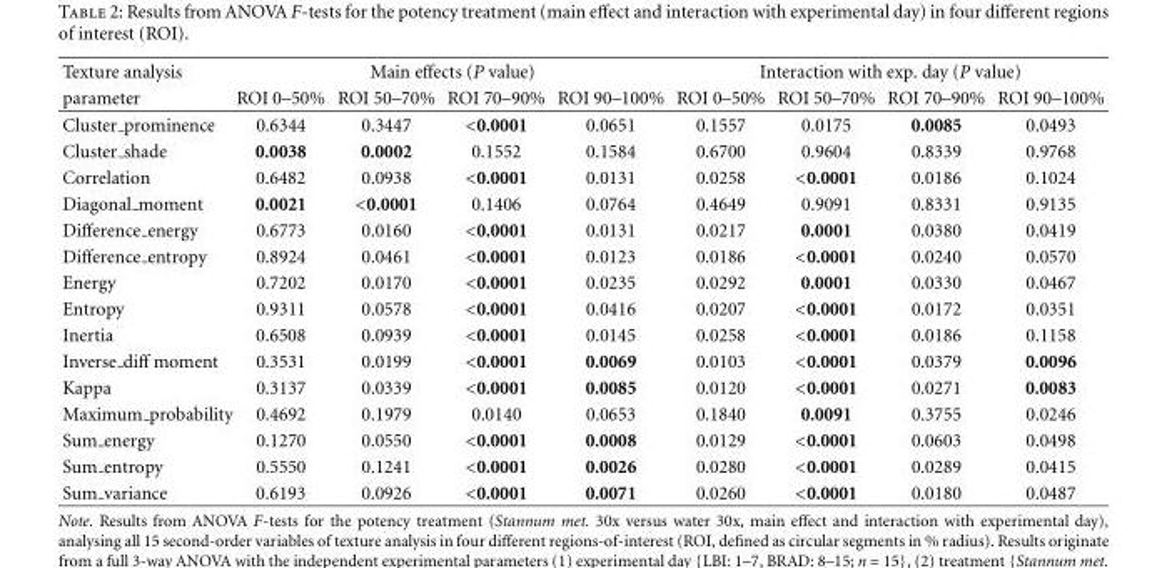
<table><thead><tr><td rowspan="2">Texture analysis parameter</td><td colspan="4">Main effects (P value)</td><td colspan="4">Interaction with exp. day (P value)</td></tr><tr><td>ROI 0–50%</td><td>ROI 50–70%</td><td>ROI 70–90%</td><td>ROI 90–100%</td><td>ROI 0–50%</td><td>ROI 50–70%</td><td>ROI 70–90%</td><td>ROI 90–100%</td></tr></thead><tbody><tr><td>Cluster prominence</td><td>0.6344</td><td>0.3447</td><td>&lt;0.0001</td><td>0.0651</td><td>0.1557</td><td>0.0175</td><td>0.0085</td><td>0.0493</td></tr><tr><td>Cluster shade</td><td>0.0038</td><td>0.0002</td><td>0.1552</td><td>0.1584</td><td>0.6700</td><td>0.9604</td><td>0.8339</td><td>0.9768</td></tr><tr><td>Correlation</td><td>0.6482</td><td>0.0938</td><td>&lt;0.0001</td><td>0.0131</td><td>0.0258</td><td>&lt;0.0001</td><td>0.0186</td><td>0.1024</td></tr><tr><td>Diagonal moment</td><td>0.0021</td><td>&lt;0.0001</td><td>0.1406</td><td>0.0764</td><td>0.4649</td><td>0.9091</td><td>0.8331</td><td>0.9135</td></tr><tr><td>Difference energy</td><td>0.6773</td><td>0.0160</td><td>&lt;0.0001</td><td>0.0131</td><td>0.0217</td><td>0.0001</td><td>0.0380</td><td>0.0419</td></tr><tr><td>Difference entropy</td><td>0.8924</td><td>0.0461</td><td>&lt;0.0001</td><td>0.0123</td><td>0.0186</td><td>&lt;0.0001</td><td>0.0240</td><td>0.0570</td></tr><tr><td>Energy</td><td>0.7202</td><td>0.0170</td><td>&lt;0.0001</td><td>0.0235</td><td>0.0292</td><td>0.0001</td><td>0.0330</td><td>0.0467</td></tr><tr><td>Entropy</td><td>0.9311</td><td>0.0578</td><td>&lt;0.0001</td><td>0.0416</td><td>0.0207</td><td>&lt;0.0001</td><td>0.0172</td><td>0.0351</td></tr><tr><td>Inertia</td><td>0.6508</td><td>0.0939</td><td>&lt;0.0001</td><td>0.0145</td><td>0.0258</td><td>&lt;0.0001</td><td>0.0186</td><td>0.1158</td></tr><tr><td>Inverse diff moment</td><td>0.3531</td><td>0.0199</td><td>&lt;0.0001</td><td>0.0069</td><td>0.0103</td><td>&lt;0.0001</td><td>0.0379</td><td>0.0096</td></tr><tr><td>Kappa</td><td>0.3137</td><td>0.0339</td><td>&lt;0.0001</td><td>0.0085</td><td>0.0120</td><td>&lt;0.0001</td><td>0.0271</td><td>0.0083</td></tr><tr><td>Maximum probability</td><td>0.4692</td><td>0.1979</td><td>0.0140</td><td>0.0653</td><td>0.1840</td><td>0.0091</td><td>0.3755</td><td>0.0246</td></tr><tr><td>Sum energy</td><td>0.1270</td><td>0.0550</td><td>&lt;0.0001</td><td>0.0008</td><td>0.0129</td><td>&lt;0.0001</td><td>0.0603</td><td>0.0498</td></tr><tr><td>Sum entropy</td><td>0.5550</td><td>0.1241</td><td>&lt;0.0001</td><td>0.0026</td><td>0.0280</td><td>&lt;0.0001</td><td>0.0289</td><td>0.0415</td></tr><tr><td>Sum variance</td><td>0.6193</td><td>0.0926</td><td>&lt;0.0001</td><td>0.0071</td><td>0.0260</td><td>&lt;0.0001</td><td>0.0180</td><td>0.0487</td></tr></tbody></table>